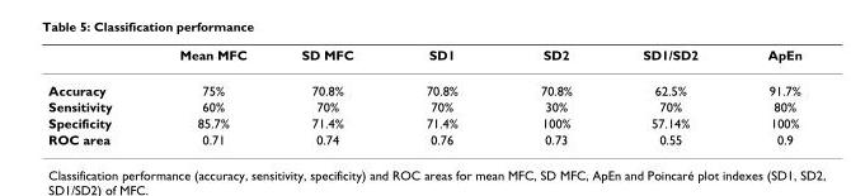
<table><thead><tr><td></td><td>Mean MFC</td><td>SD MFC</td><td>SD1</td><td>SD2</td><td>SD1/SD2</td><td>ApEn</td></tr></thead><tbody><tr><td>Accuracy</td><td>75%</td><td>70.8%</td><td>70.8%</td><td>70.8%</td><td>62.5%</td><td>91.7%</td></tr><tr><td>Sensitivity</td><td>60%</td><td>70%</td><td>70%</td><td>30%</td><td>70%</td><td>80%</td></tr><tr><td>Specificity</td><td>85.7%</td><td>71.4%</td><td>71.4%</td><td>100%</td><td>57.14%</td><td>100%</td></tr><tr><td>ROC area</td><td>0.71</td><td>0.74</td><td>0.76</td><td>0.73</td><td>0.55</td><td>0.9</td></tr></tbody></table>